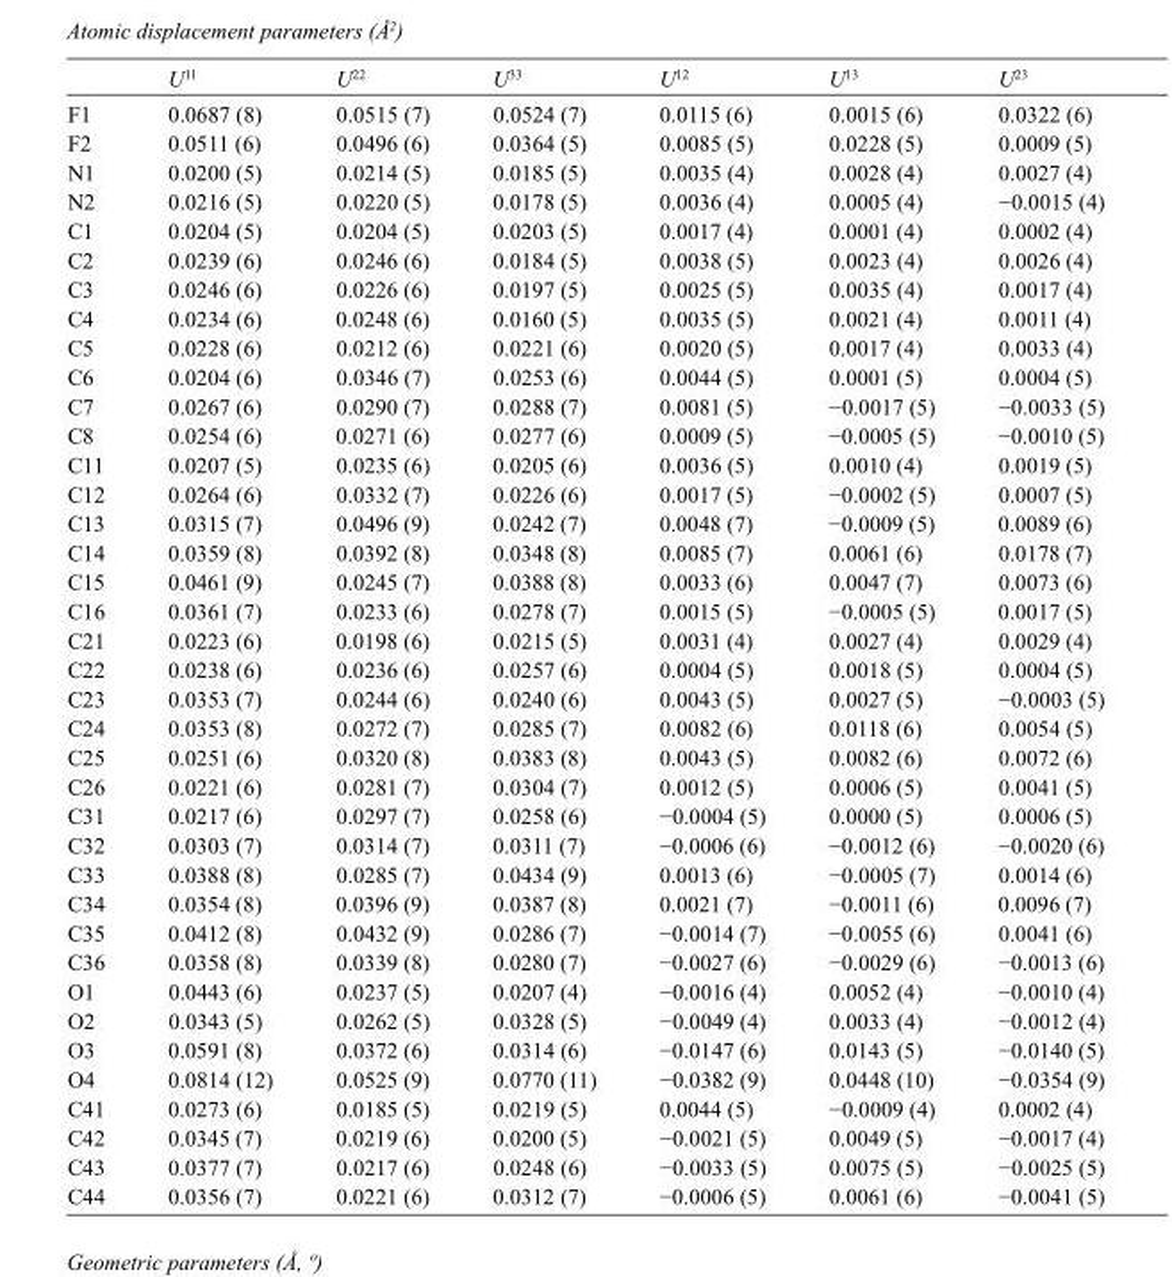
<table><thead><tr><td></td><td>U<sup>11</sup></td><td>U<sup>22</sup></td><td>U<sup>33</sup></td><td>U<sup>12</sup></td><td>U<sup>13</sup></td><td>U<sup>23</sup></td></tr></thead><tbody><tr><td>F1</td><td>0.0687 (8)</td><td>0.0515 (7)</td><td>0.0524 (7)</td><td>0.0115 (6)</td><td>0.0015 (6)</td><td>0.0322 (6)</td></tr><tr><td>F2</td><td>0.0511 (6)</td><td>0.0496 (6)</td><td>0.0364 (5)</td><td>0.0085 (5)</td><td>0.0228 (5)</td><td>0.0009 (5)</td></tr><tr><td>N1</td><td>0.0200 (5)</td><td>0.0214 (5)</td><td>0.0185 (5)</td><td>0.0035 (4)</td><td>0.0028 (4)</td><td>0.0027 (4)</td></tr><tr><td>N2</td><td>0.0216 (5)</td><td>0.0220 (5)</td><td>0.0178 (5)</td><td>0.0036 (4)</td><td>0.0005 (4)</td><td>−0.0015 (4)</td></tr><tr><td>C1</td><td>0.0204 (5)</td><td>0.0204 (5)</td><td>0.0203 (5)</td><td>0.0017 (4)</td><td>0.0001 (4)</td><td>0.0002 (4)</td></tr><tr><td>C2</td><td>0.0239 (6)</td><td>0.0246 (6)</td><td>0.0184 (5)</td><td>0.0038 (5)</td><td>0.0023 (4)</td><td>0.0026 (4)</td></tr><tr><td>C3</td><td>0.0246 (6)</td><td>0.0226 (6)</td><td>0.0197 (5)</td><td>0.0025 (5)</td><td>0.0035 (4)</td><td>0.0017 (4)</td></tr><tr><td>C4</td><td>0.0234 (6)</td><td>0.0248 (6)</td><td>0.0160 (5)</td><td>0.0035 (5)</td><td>0.0021 (4)</td><td>0.0011 (4)</td></tr><tr><td>C5</td><td>0.0228 (6)</td><td>0.0212 (6)</td><td>0.0221 (6)</td><td>0.0020 (5)</td><td>0.0017 (4)</td><td>0.0033 (4)</td></tr><tr><td>C6</td><td>0.0204 (6)</td><td>0.0346 (7)</td><td>0.0253 (6)</td><td>0.0044 (5)</td><td>0.0001 (5)</td><td>0.0004 (5)</td></tr><tr><td>C7</td><td>0.0267 (6)</td><td>0.0290 (7)</td><td>0.0288 (7)</td><td>0.0081 (5)</td><td>−0.0017 (5)</td><td>−0.0033 (5)</td></tr><tr><td>C8</td><td>0.0254 (6)</td><td>0.0271 (6)</td><td>0.0277 (6)</td><td>0.0009 (5)</td><td>−0.0005 (5)</td><td>−0.0010 (5)</td></tr><tr><td>C11</td><td>0.0207 (5)</td><td>0.0235 (6)</td><td>0.0205 (6)</td><td>0.0036 (5)</td><td>0.0010 (4)</td><td>0.0019 (5)</td></tr><tr><td>C12</td><td>0.0264 (6)</td><td>0.0332 (7)</td><td>0.0226 (6)</td><td>0.0017 (5)</td><td>−0.0002 (5)</td><td>0.0007 (5)</td></tr><tr><td>C13</td><td>0.0315 (7)</td><td>0.0496 (9)</td><td>0.0242 (7)</td><td>0.0048 (7)</td><td>−0.0009 (5)</td><td>0.0089 (6)</td></tr><tr><td>C14</td><td>0.0359 (8)</td><td>0.0392 (8)</td><td>0.0348 (8)</td><td>0.0085 (7)</td><td>0.0061 (6)</td><td>0.0178 (7)</td></tr><tr><td>C15</td><td>0.0461 (9)</td><td>0.0245 (7)</td><td>0.0388 (8)</td><td>0.0033 (6)</td><td>0.0047 (7)</td><td>0.0073 (6)</td></tr><tr><td>C16</td><td>0.0361 (7)</td><td>0.0233 (6)</td><td>0.0278 (7)</td><td>0.0015 (5)</td><td>−0.0005 (5)</td><td>0.0017 (5)</td></tr><tr><td>C21</td><td>0.0223 (6)</td><td>0.0198 (6)</td><td>0.0215 (5)</td><td>0.0031 (4)</td><td>0.0027 (4)</td><td>0.0029 (4)</td></tr><tr><td>C22</td><td>0.0238 (6)</td><td>0.0236 (6)</td><td>0.0257 (6)</td><td>0.0004 (5)</td><td>0.0018 (5)</td><td>0.0004 (5)</td></tr><tr><td>C23</td><td>0.0353 (7)</td><td>0.0244 (6)</td><td>0.0240 (6)</td><td>0.0043 (5)</td><td>0.0027 (5)</td><td>−0.0003 (5)</td></tr><tr><td>C24</td><td>0.0353 (8)</td><td>0.0272 (7)</td><td>0.0285 (7)</td><td>0.0082 (6)</td><td>0.0118 (6)</td><td>0.0054 (5)</td></tr><tr><td>C25</td><td>0.0251 (6)</td><td>0.0320 (8)</td><td>0.0383 (8)</td><td>0.0043 (5)</td><td>0.0082 (6)</td><td>0.0072 (6)</td></tr><tr><td>C26</td><td>0.0221 (6)</td><td>0.0281 (7)</td><td>0.0304 (7)</td><td>0.0012 (5)</td><td>0.0006 (5)</td><td>0.0041 (5)</td></tr><tr><td>C31</td><td>0.0217 (6)</td><td>0.0297 (7)</td><td>0.0258 (6)</td><td>−0.0004 (5)</td><td>0.0000 (5)</td><td>0.0006 (5)</td></tr><tr><td>C32</td><td>0.0303 (7)</td><td>0.0314 (7)</td><td>0.0311 (7)</td><td>−0.0006 (6)</td><td>−0.0012 (6)</td><td>−0.0020 (6)</td></tr><tr><td>C33</td><td>0.0388 (8)</td><td>0.0285 (7)</td><td>0.0434 (9)</td><td>0.0013 (6)</td><td>−0.0005 (7)</td><td>0.0014 (6)</td></tr><tr><td>C34</td><td>0.0354 (8)</td><td>0.0396 (9)</td><td>0.0387 (8)</td><td>0.0021 (7)</td><td>−0.0011 (6)</td><td>0.0096 (7)</td></tr><tr><td>C35</td><td>0.0412 (8)</td><td>0.0432 (9)</td><td>0.0286 (7)</td><td>−0.0014 (7)</td><td>−0.0055 (6)</td><td>0.0041 (6)</td></tr><tr><td>C36</td><td>0.0358 (8)</td><td>0.0339 (8)</td><td>0.0280 (7)</td><td>−0.0027 (6)</td><td>−0.0029 (6)</td><td>−0.0013 (6)</td></tr><tr><td>O1</td><td>0.0443 (6)</td><td>0.0237 (5)</td><td>0.0207 (4)</td><td>−0.0016 (4)</td><td>0.0052 (4)</td><td>−0.0010 (4)</td></tr><tr><td>O2</td><td>0.0343 (5)</td><td>0.0262 (5)</td><td>0.0328 (5)</td><td>−0.0049 (4)</td><td>0.0033 (4)</td><td>−0.0012 (4)</td></tr><tr><td>O3</td><td>0.0591 (8)</td><td>0.0372 (6)</td><td>0.0314 (6)</td><td>−0.0147 (6)</td><td>0.0143 (5)</td><td>−0.0140 (5)</td></tr><tr><td>O4</td><td>0.0814 (12)</td><td>0.0525 (9)</td><td>0.0770 (11)</td><td>−0.0382 (9)</td><td>0.0448 (10)</td><td>−0.0354 (9)</td></tr><tr><td>C41</td><td>0.0273 (6)</td><td>0.0185 (5)</td><td>0.0219 (5)</td><td>0.0044 (5)</td><td>−0.0009 (4)</td><td>0.0002 (4)</td></tr><tr><td>C42</td><td>0.0345 (7)</td><td>0.0219 (6)</td><td>0.0200 (5)</td><td>−0.0021 (5)</td><td>0.0049 (5)</td><td>−0.0017 (4)</td></tr><tr><td>C43</td><td>0.0377 (7)</td><td>0.0217 (6)</td><td>0.0248 (6)</td><td>−0.0033 (5)</td><td>0.0075 (5)</td><td>−0.0025 (5)</td></tr><tr><td>C44</td><td>0.0356 (7)</td><td>0.0221 (6)</td><td>0.0312 (7)</td><td>−0.0006 (5)</td><td>0.0061 (6)</td><td>−0.0041 (5)</td></tr></tbody></table>